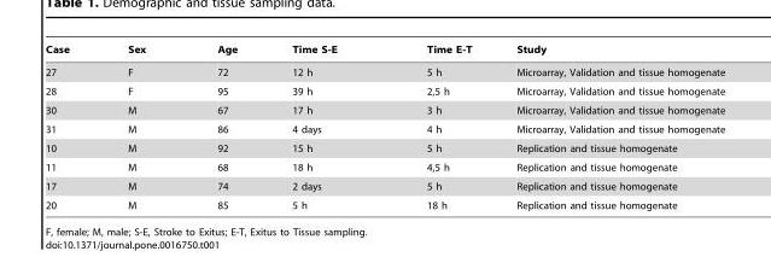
<table><thead><tr><td>Case</td><td>Sex</td><td>Age</td><td>Time S-E</td><td>Time E-T</td><td>Study</td></tr></thead><tbody><tr><td>27</td><td>F</td><td>72</td><td>12 h</td><td>5 h</td><td>Microarray, Validation and tissue homogenate</td></tr><tr><td>28</td><td>F</td><td>95</td><td>39 h</td><td>2,5 h</td><td>Microarray, Validation and tissue homogenate</td></tr><tr><td>30</td><td>M</td><td>67</td><td>17 h</td><td>3 h</td><td>Microarray, Validation and tissue homogenate</td></tr><tr><td>31</td><td>M</td><td>86</td><td>4 days</td><td>4 h</td><td>Microarray, Validation and tissue homogenate</td></tr><tr><td>10</td><td>M</td><td>92</td><td>15 h</td><td>5 h</td><td>Replication and tissue homogenate</td></tr><tr><td>11</td><td>M</td><td>68</td><td>18 h</td><td>4,5 h</td><td>Replication and tissue homogenate</td></tr><tr><td>17</td><td>M</td><td>74</td><td>2 days</td><td>5 h</td><td>Replication and tissue homogenate</td></tr><tr><td>20</td><td>M</td><td>85</td><td>5 h</td><td>18 h</td><td>Replication and tissue homogenate</td></tr></tbody></table>